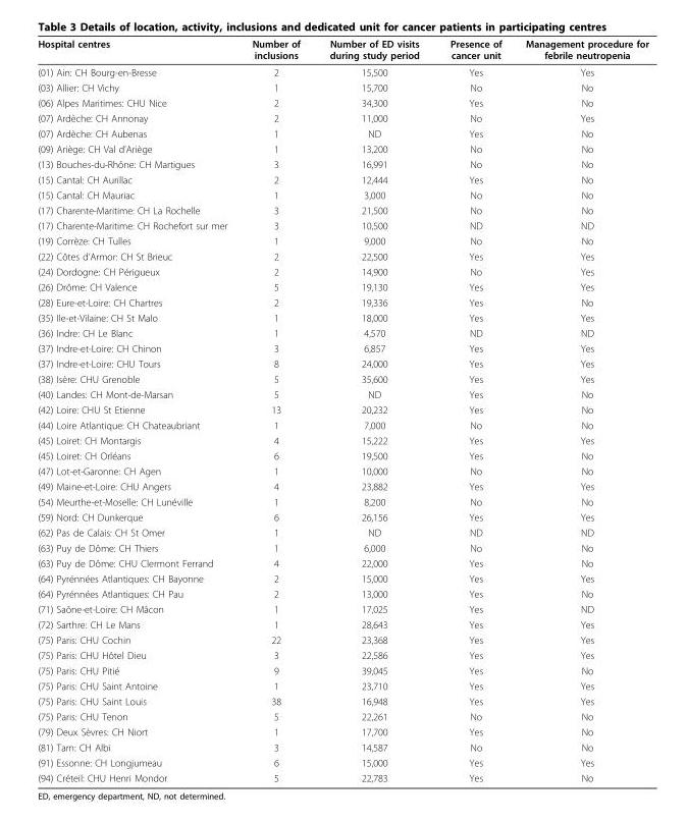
<table><thead><tr><td>Hospital centres</td><td>Number of inclusions</td><td>Number of ED visits during study period</td><td>Presence of cancer unit</td><td>Management procedure for febrile neutropenia</td></tr></thead><tbody><tr><td>(01) Ain: CH Bourg-en-Bresse</td><td>2</td><td>15,500</td><td>Yes</td><td>Yes</td></tr><tr><td>(03) Allier: CH Vichy</td><td>1</td><td>15,700</td><td>No</td><td>No</td></tr><tr><td>(06) Alpes Maritimes: CHU Nice</td><td>2</td><td>34,300</td><td>Yes</td><td>No</td></tr><tr><td>(07) Ardèche: CH Annonay</td><td>2</td><td>11,000</td><td>No</td><td>Yes</td></tr><tr><td>(07) Ardèche: CH Aubenas</td><td>1</td><td>ND</td><td>Yes</td><td>No</td></tr><tr><td>(09) Ariège: CH Val d’Ariège</td><td>1</td><td>13,200</td><td>No</td><td>No</td></tr><tr><td>(13) Bouches-du-Rhône: CH Martigues</td><td>3</td><td>16,991</td><td>No</td><td>No</td></tr><tr><td>(15) Cantal: CH Aurillac</td><td>2</td><td>12,444</td><td>Yes</td><td>No</td></tr><tr><td>(15) Cantal: CH Mauriac</td><td>1</td><td>3,000</td><td>No</td><td>No</td></tr><tr><td>(17) Charente-Maritime: CH La Rochelle</td><td>3</td><td>21,500</td><td>No</td><td>No</td></tr><tr><td>(17) Charente-Maritime: CH Rochefort sur mer</td><td>3</td><td>10,500</td><td>ND</td><td>ND</td></tr><tr><td>(19) Corrèze: CH Tulles</td><td>1</td><td>9,000</td><td>No</td><td>No</td></tr><tr><td>(22) Côtes d’Armor: CH St Brieuc</td><td>2</td><td>22,500</td><td>Yes</td><td>Yes</td></tr><tr><td>(24) Dordogne: CH Périgueux</td><td>2</td><td>14,900</td><td>No</td><td>Yes</td></tr><tr><td>(26) Drôme: CH Valence</td><td>5</td><td>19,130</td><td>Yes</td><td>Yes</td></tr><tr><td>(28) Eure-et-Loire: CH Chartres</td><td>2</td><td>19,336</td><td>Yes</td><td>No</td></tr><tr><td>(35) Ile-et-Vilaine: CH St Malo</td><td>1</td><td>18,000</td><td>Yes</td><td>Yes</td></tr><tr><td>(36) Indre: CH Le Blanc</td><td>1</td><td>4,570</td><td>ND</td><td>ND</td></tr><tr><td>(37) Indre-et-Loire: CH Chinon</td><td>3</td><td>6,857</td><td>Yes</td><td>Yes</td></tr><tr><td>(37) Indre-et-Loire: CHU Tours</td><td>8</td><td>24,000</td><td>Yes</td><td>Yes</td></tr><tr><td>(38) Isère: CHU Grenoble</td><td>5</td><td>35,600</td><td>Yes</td><td>Yes</td></tr><tr><td>(40) Landes: CH Mont-de-Marsan</td><td>5</td><td>ND</td><td>Yes</td><td>No</td></tr><tr><td>(42) Loire: CHU St Etienne</td><td>13</td><td>20,232</td><td>Yes</td><td>No</td></tr><tr><td>(44) Loire Atlantique: CH Chateaubriant</td><td>1</td><td>7,000</td><td>No</td><td>No</td></tr><tr><td>(45) Loiret: CH Montargis</td><td>4</td><td>15,222</td><td>Yes</td><td>Yes</td></tr><tr><td>(45) Loiret: CH Orléans</td><td>6</td><td>19,500</td><td>Yes</td><td>No</td></tr><tr><td>(47) Lot-et-Garonne: CH Agen</td><td>1</td><td>10,000</td><td>No</td><td>No</td></tr><tr><td>(49) Maine-et-Loire: CHU Angers</td><td>4</td><td>23,882</td><td>Yes</td><td>Yes</td></tr><tr><td>(54) Meurthe-et-Moselle: CH Lunéville</td><td>1</td><td>8,200</td><td>No</td><td>No</td></tr><tr><td>(59) Nord: CH Dunkerque</td><td>6</td><td>26,156</td><td>Yes</td><td>Yes</td></tr><tr><td>(62) Pas de Calais: CH St Omer</td><td>1</td><td>ND</td><td>ND</td><td>ND</td></tr><tr><td>(63) Puy de Dôme: CH Thiers</td><td>1</td><td>6,000</td><td>No</td><td>No</td></tr><tr><td>(63) Puy de Dôme: CHU Clermont Ferrand</td><td>4</td><td>22,000</td><td>Yes</td><td>No</td></tr><tr><td>(64) Pyrénnées Atlantiques: CH Bayonne</td><td>2</td><td>15,000</td><td>Yes</td><td>Yes</td></tr><tr><td>(64) Pyrénnées Atlantiques: CH Pau</td><td>2</td><td>13,000</td><td>Yes</td><td>No</td></tr><tr><td>(71) Saône-et-Loire: CH Mâcon</td><td>1</td><td>17,025</td><td>Yes</td><td>ND</td></tr><tr><td>(72) Sarthre: CH Le Mans</td><td>1</td><td>28,643</td><td>Yes</td><td>Yes</td></tr><tr><td>(75) Paris: CHU Cochin</td><td>22</td><td>23,368</td><td>Yes</td><td>Yes</td></tr><tr><td>(75) Paris: CHU Hôtel Dieu</td><td>3</td><td>22,586</td><td>Yes</td><td>Yes</td></tr><tr><td>(75) Paris: CHU Pitié</td><td>9</td><td>39,045</td><td>Yes</td><td>No</td></tr><tr><td>(75) Paris: CHU Saint Antoine</td><td>1</td><td>23,710</td><td>Yes</td><td>Yes</td></tr><tr><td>(75) Paris: CHU Saint Louis</td><td>38</td><td>16,948</td><td>Yes</td><td>Yes</td></tr><tr><td>(75) Paris: CHU Tenon</td><td>5</td><td>22,261</td><td>No</td><td>No</td></tr><tr><td>(79) Deux Sèvres: CH Niort</td><td>1</td><td>17,700</td><td>Yes</td><td>No</td></tr><tr><td>(81) Tarn: CH Albi</td><td>3</td><td>14,587</td><td>No</td><td>No</td></tr><tr><td>(91) Essonne: CH Longjumeau</td><td>6</td><td>15,000</td><td>Yes</td><td>Yes</td></tr><tr><td>(94) Créteil: CHU Henri Mondor</td><td>5</td><td>22,783</td><td>Yes</td><td>No</td></tr></tbody></table>